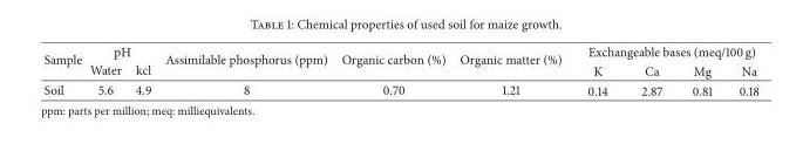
<table><thead><tr><td rowspan="2">Sample</td><td colspan="2">pH</td><td rowspan="2">Assimilable phosphorus (ppm)</td><td rowspan="2">Organic carbon (%)</td><td rowspan="2">Organic matter (%)</td><td colspan="4">Exchangeable bases (meq/100 g)</td></tr><tr><td>Water</td><td>kcl</td><td>K</td><td>Ca</td><td>Mg</td><td>Na</td></tr></thead><tbody><tr><td>Soil</td><td>5.6</td><td>4.9</td><td>8</td><td>0.70</td><td>1.21</td><td>0.14</td><td>2.87</td><td>0.81</td><td>0.18</td></tr></tbody></table>